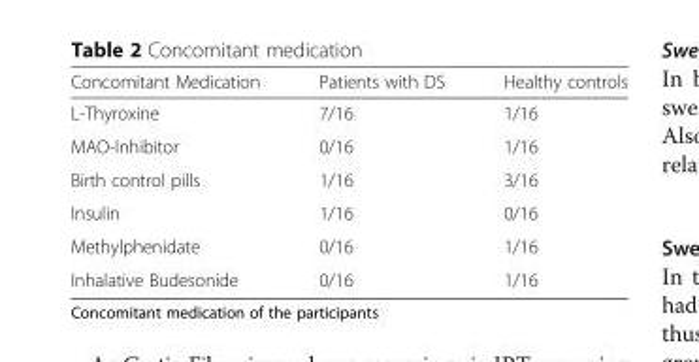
<table><thead><tr><td>Concomitant Medication</td><td>Patients with DS</td><td>Healthy controls</td></tr></thead><tbody><tr><td>L-Thyroxine</td><td>7/16</td><td>1/16</td></tr><tr><td>MAO-Inhibitor</td><td>0/16</td><td>1/16</td></tr><tr><td>Birth control pills</td><td>1/16</td><td>3/16</td></tr><tr><td>Insulin</td><td>1/16</td><td>0/16</td></tr><tr><td>Methylphenidate</td><td>0/16</td><td>1/16</td></tr><tr><td>Inhalative Budesonide</td><td>0/16</td><td>1/16</td></tr></tbody></table>